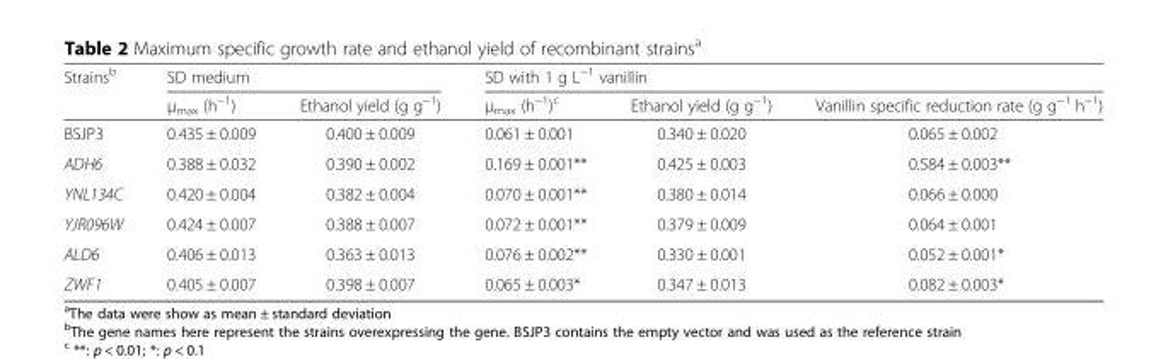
<table><thead><tr><td rowspan="2">Strains<sup>b</sup></td><td colspan="2">SD medium</td><td colspan="3">SD with 1 g L<sup>−1</sup> vanillin</td></tr><tr><td>μ<sub>max</sub> (h<sup>−1</sup>)</td><td>Ethanol yield (g g<sup>−1</sup>)</td><td>μ<sub>max</sub> (h<sup>−1</sup>)<sup>c</sup></td><td>Ethanol yield (g g<sup>−1</sup>)</td><td>Vanillin specific reduction rate (g g<sup>−1</sup> h<sup>−1</sup>)</td></tr></thead><tbody><tr><td>BSJP3</td><td>0.435 ± 0.009</td><td>0.400 ± 0.009</td><td>0.061 ± 0.001</td><td>0.340 ± 0.020</td><td>0.065 ± 0.002</td></tr><tr><td>ADH6</td><td>0.388 ± 0.032</td><td>0.390 ± 0.002</td><td>0.169 ± 0.001**</td><td>0.425 ± 0.003</td><td>0.584 ± 0.003**</td></tr><tr><td>YNL134C</td><td>0.420 ± 0.004</td><td>0.382 ± 0.004</td><td>0.070 ± 0.001**</td><td>0.380 ± 0.014</td><td>0.066 ± 0.000</td></tr><tr><td>YJR096W</td><td>0.424 ± 0.007</td><td>0.388 ± 0.007</td><td>0.072 ± 0.001**</td><td>0.379 ± 0.009</td><td>0.064 ± 0.001</td></tr><tr><td>ALD6</td><td>0.406 ± 0.013</td><td>0.363 ± 0.013</td><td>0.076 ± 0.002**</td><td>0.330 ± 0.001</td><td>0.052 ± 0.001*</td></tr><tr><td>ZWF1</td><td>0.405 ± 0.007</td><td>0.398 ± 0.007</td><td>0.065 ± 0.003*</td><td>0.347 ± 0.013</td><td>0.082 ± 0.003*</td></tr></tbody></table>